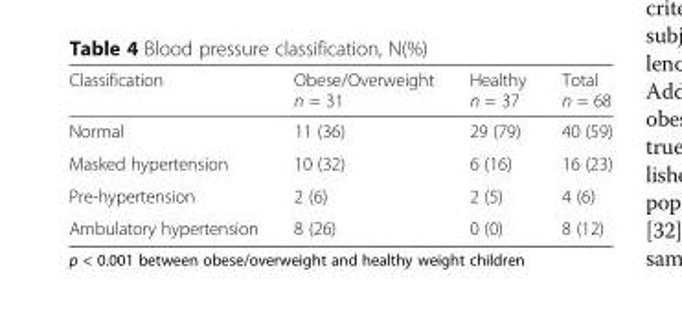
<table><thead><tr><td>Classification</td><td>Obese/Overweight n = 31</td><td>Healthy n = 37</td><td>Total n = 68</td></tr></thead><tbody><tr><td>Normal</td><td>11 (36)</td><td>29 (79)</td><td>40 (59)</td></tr><tr><td>Masked hypertension</td><td>10 (32)</td><td>6 (16)</td><td>16 (23)</td></tr><tr><td>Pre-hypertension</td><td>2 (6)</td><td>2 (5)</td><td>4 (6)</td></tr><tr><td>Ambulatory hypertension</td><td>8 (26)</td><td>0 (0)</td><td>8 (12)</td></tr></tbody></table>